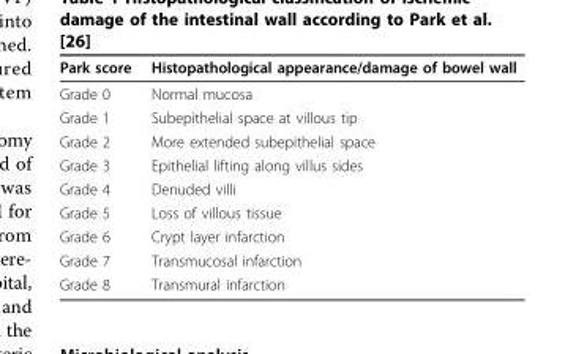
<table><thead><tr><td>Park score</td><td>Histopathological appearance/damage of bowel wall</td></tr></thead><tbody><tr><td>Grade 0</td><td>Normal mucosa</td></tr><tr><td>Grade 1</td><td>Subepithelial space at villous tip</td></tr><tr><td>Grade 2</td><td>More extended subepithelial space</td></tr><tr><td>Grade 3</td><td>Epithelial lifting along villus sides</td></tr><tr><td>Grade 4</td><td>Denuded villi</td></tr><tr><td>Grade 5</td><td>Loss of villous tissue</td></tr><tr><td>Grade 6</td><td>Crypt layer infarction</td></tr><tr><td>Grade 7</td><td>Transmucosal infarction</td></tr><tr><td>Grade 8</td><td>Transmural infarction</td></tr></tbody></table>